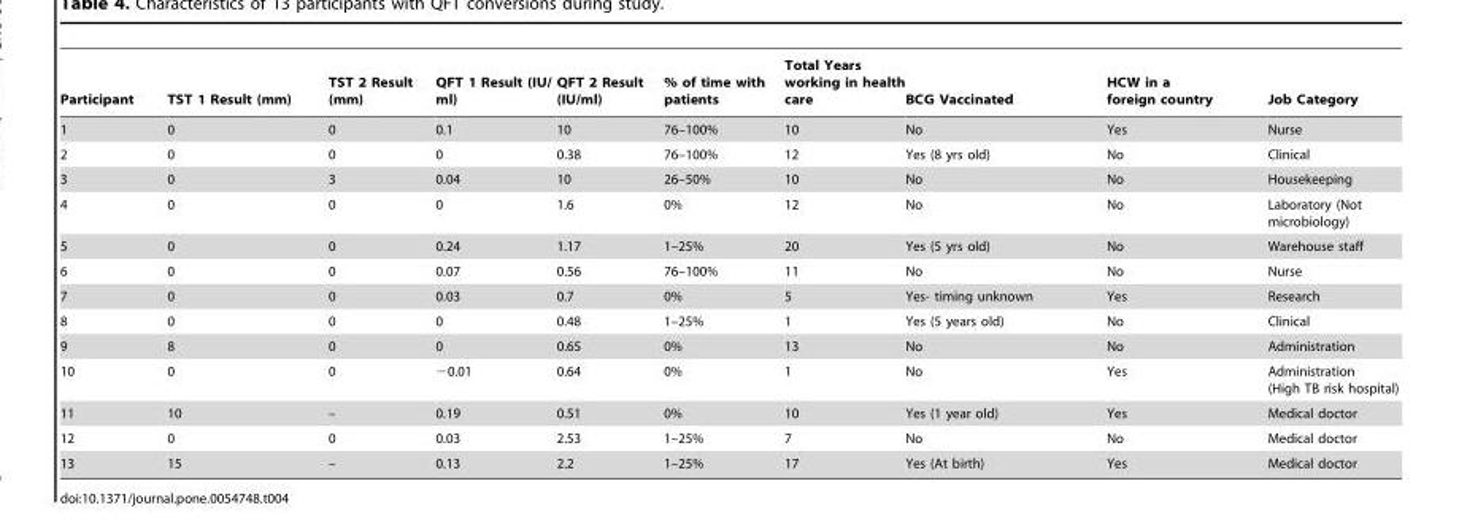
<table><thead><tr><td>Participant</td><td>TST 1 Result (mm)</td><td>TST 2 Result (mm)</td><td>QFT 1 Result (IU/ ml)</td><td>QFT 2 Result (IU/ml)</td><td>% of time with patients</td><td>Total Years working in health care</td><td>BCG Vaccinated</td><td>HCW in a foreign country</td><td>Job Category</td></tr></thead><tbody><tr><td>1</td><td>0</td><td>0</td><td>0.1</td><td>10</td><td>76–100%</td><td>10</td><td>No</td><td>Yes</td><td>Nurse</td></tr><tr><td>2</td><td>0</td><td>0</td><td>0</td><td>0.38</td><td>76–100%</td><td>12</td><td>Yes (8 yrs old)</td><td>No</td><td>Clinical</td></tr><tr><td>3</td><td>0</td><td>3</td><td>0.04</td><td>10</td><td>26–50%</td><td>10</td><td>No</td><td>No</td><td>Housekeeping</td></tr><tr><td>4</td><td>0</td><td>0</td><td>0</td><td>1.6</td><td>0%</td><td>12</td><td>No</td><td>No</td><td>Laboratory (Not microbiology)</td></tr><tr><td>5</td><td>0</td><td>0</td><td>0.24</td><td>1.17</td><td>1–25%</td><td>20</td><td>Yes (5 yrs old)</td><td>No</td><td>Warehouse staff</td></tr><tr><td>6</td><td>0</td><td>0</td><td>0.07</td><td>0.56</td><td>76–100%</td><td>11</td><td>No</td><td>No</td><td>Nurse</td></tr><tr><td>7</td><td>0</td><td>0</td><td>0.03</td><td>0.7</td><td>0%</td><td>5</td><td>Yes- timing unknown</td><td>Yes</td><td>Research</td></tr><tr><td>8</td><td>0</td><td>0</td><td>0</td><td>0.48</td><td>1–25%</td><td>1</td><td>Yes (5 years old)</td><td>No</td><td>Clinical</td></tr><tr><td>9</td><td>8</td><td>0</td><td>0</td><td>0.65</td><td>0%</td><td>13</td><td>No</td><td>No</td><td>Administration</td></tr><tr><td>10</td><td>0</td><td>0</td><td>−0.01</td><td>0.64</td><td>0%</td><td>1</td><td>No</td><td>Yes</td><td>Administration (High TB risk hospital)</td></tr><tr><td>11</td><td>10</td><td>–</td><td>0.19</td><td>0.51</td><td>0%</td><td>10</td><td>Yes (1 year old)</td><td>Yes</td><td>Medical doctor</td></tr><tr><td>12</td><td>0</td><td>0</td><td>0.03</td><td>2.53</td><td>1–25%</td><td>7</td><td>No</td><td>No</td><td>Medical doctor</td></tr><tr><td>13</td><td>15</td><td>–</td><td>0.13</td><td>2.2</td><td>1–25%</td><td>17</td><td>Yes (At birth)</td><td>Yes</td><td>Medical doctor</td></tr></tbody></table>